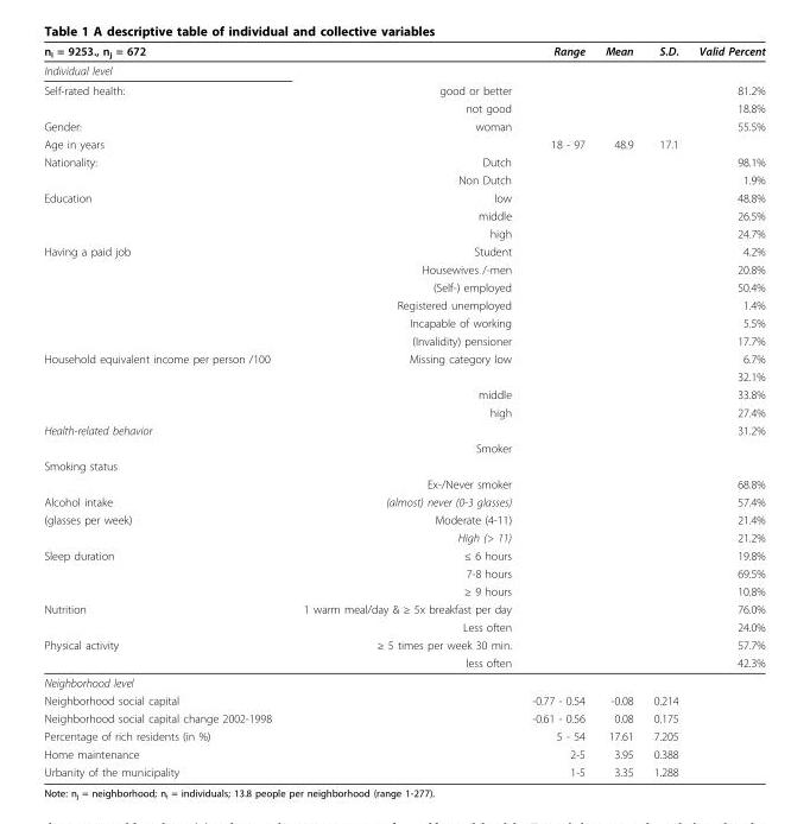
<table><thead><tr><td>n<sub>i</sub> = 9253., n<sub>j</sub> = 672</td><td></td><td>Range</td><td>Mean</td><td>S.D.</td><td>Valid Percent</td></tr></thead><tbody><tr><td colspan="6">Individual level</td></tr><tr><td rowspan="2">Self-rated health:</td><td>good or better</td><td></td><td></td><td></td><td>81.2%</td></tr><tr><td>not good</td><td></td><td></td><td></td><td>18.8%</td></tr><tr><td>Gender:</td><td>woman</td><td></td><td></td><td></td><td>55.5%</td></tr><tr><td>Age in years</td><td></td><td>18 - 97</td><td>48.9</td><td>17.1</td><td></td></tr><tr><td rowspan="2">Nationality:</td><td>Dutch</td><td></td><td></td><td></td><td>98.1%</td></tr><tr><td>Non Dutch</td><td></td><td></td><td></td><td>1.9%</td></tr><tr><td rowspan="3">Education</td><td>low</td><td></td><td></td><td></td><td>48.8%</td></tr><tr><td>middle</td><td></td><td></td><td></td><td>26.5%</td></tr><tr><td>high</td><td></td><td></td><td></td><td>24.7%</td></tr><tr><td rowspan="6">Having a paid job</td><td>Student</td><td></td><td></td><td></td><td>4.2%</td></tr><tr><td>Housewives /-men</td><td></td><td></td><td></td><td>20.8%</td></tr><tr><td>(Self-) employed</td><td></td><td></td><td></td><td>50.4%</td></tr><tr><td>Registered unemployed</td><td></td><td></td><td></td><td>1.4%</td></tr><tr><td>Incapable of working</td><td></td><td></td><td></td><td>5.5%</td></tr><tr><td>(Invalidity) pensioner</td><td></td><td></td><td></td><td>17.7%</td></tr><tr><td rowspan="4">Household equivalent income per person /100</td><td>Missing category low</td><td></td><td></td><td></td><td>6.7%</td></tr><tr><td></td><td></td><td></td><td></td><td>32.1%</td></tr><tr><td>middle</td><td></td><td></td><td></td><td>33.8%</td></tr><tr><td>high</td><td></td><td></td><td></td><td>27.4%</td></tr><tr><td rowspan="2">Health-related behavior</td><td></td><td></td><td></td><td></td><td>31.2%</td></tr><tr><td>Smoker</td><td></td><td></td><td></td><td></td></tr><tr><td colspan="6">Smoking status</td></tr><tr><td></td><td>Ex-/Never smoker</td><td></td><td></td><td></td><td>68.8%</td></tr><tr><td>Alcohol intake</td><td>(almost) never (0-3 glasses)</td><td></td><td></td><td></td><td>57.4%</td></tr><tr><td rowspan="2">(glasses per week)</td><td>Moderate (4-11)</td><td></td><td></td><td></td><td>21.4%</td></tr><tr><td>High (&gt; 11)</td><td></td><td></td><td></td><td>21.2%</td></tr><tr><td rowspan="3">Sleep duration</td><td>≤ 6 hours</td><td></td><td></td><td></td><td>19.8%</td></tr><tr><td>7-8 hours</td><td></td><td></td><td></td><td>69.5%</td></tr><tr><td>≥ 9 hours</td><td></td><td></td><td></td><td>10.8%</td></tr><tr><td rowspan="2">Nutrition</td><td>1 warm meal/day &amp; ≥ 5x breakfast per day</td><td></td><td></td><td></td><td>76.0%</td></tr><tr><td>Less often</td><td></td><td></td><td></td><td>24.0%</td></tr><tr><td rowspan="2">Physical activity</td><td>≥ 5 times per week 30 min.</td><td></td><td></td><td></td><td>57.7%</td></tr><tr><td>less often</td><td></td><td></td><td></td><td>42.3%</td></tr><tr><td colspan="6">Neighborhood level</td></tr><tr><td>Neighborhood social capital</td><td></td><td>-0.77 - 0.54</td><td>-0.08</td><td>0.214</td><td></td></tr><tr><td>Neighborhood social capital change 2002-1998</td><td></td><td>-0.61 - 0.56</td><td>0.08</td><td>0.175</td><td></td></tr><tr><td>Percentage of rich residents (in %)</td><td></td><td>5 - 54</td><td>17.61</td><td>7.205</td><td></td></tr><tr><td>Home maintenance</td><td></td><td>2-5</td><td>3.95</td><td>0.388</td><td></td></tr><tr><td>Urbanity of the municipality</td><td></td><td>1-5</td><td>3.35</td><td>1.288</td><td></td></tr></tbody></table>